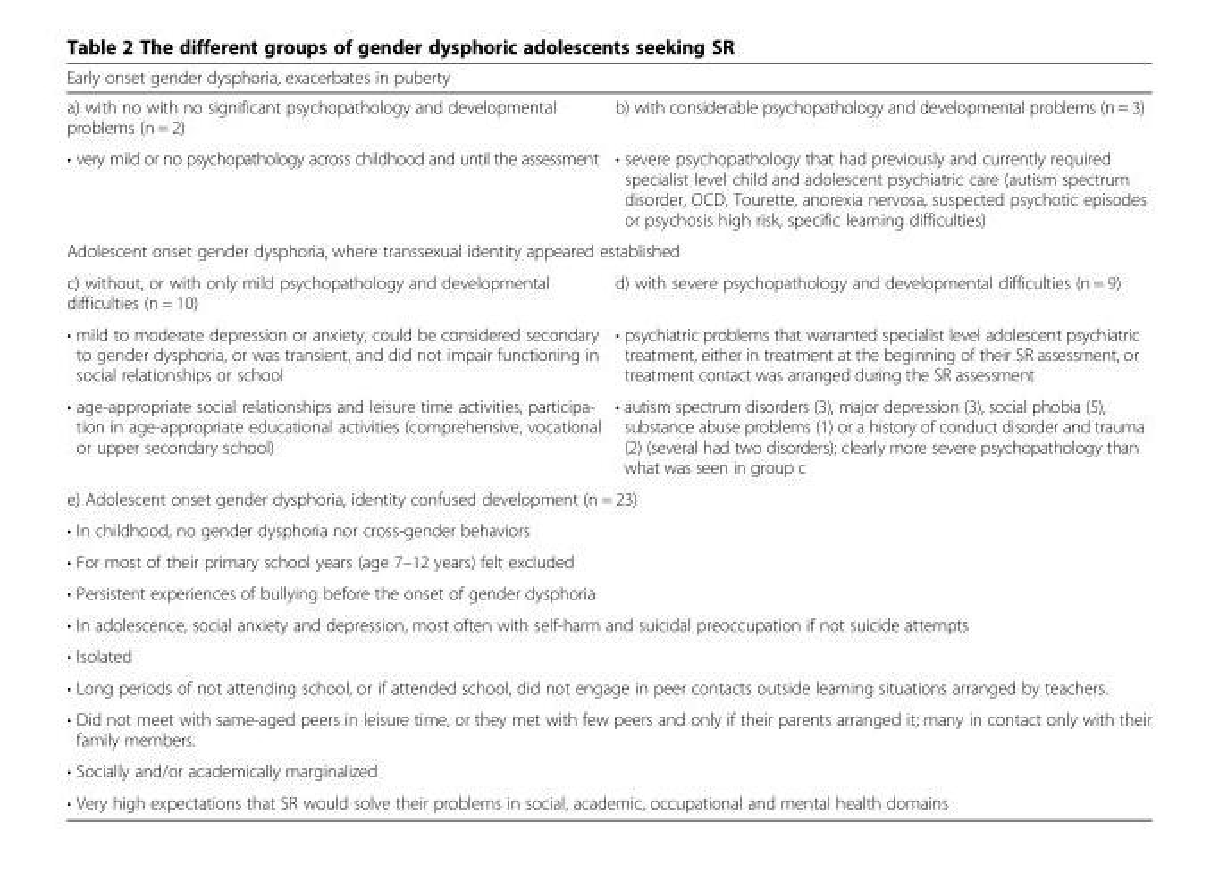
<table><thead><tr><td colspan="2">Early onset gender dysphoria, exacerbates in puberty</td></tr><tr><td>a) with no with no significant psychopathology and developmental problems (n = 2)</td><td>b) with considerable psychopathology and developmental problems (n = 3)</td></tr></thead><tbody><tr><td>• very mild or no psychopathology across childhood and until the assessment</td><td>• severe psychopathology that had previously and currently required specialist level child and adolescent psychiatric care (autism spectrum disorder, OCD, Tourette, anorexia nervosa, suspected psychotic episodes or psychosis high risk, specific learning difficulties)</td></tr><tr><td colspan="2">Adolescent onset gender dysphoria, where transsexual identity appeared established</td></tr><tr><td>c) without, or with only mild psychopathology and developmental difficulties (n = 10)</td><td>d) with severe psychopathology and developmental difficulties (n = 9)</td></tr><tr><td>• mild to moderate depression or anxiety, could be considered secondary to gender dysphoria, or was transient, and did not impair functioning in social relationships or school</td><td>• psychiatric problems that warranted specialist level adolescent psychiatric treatment, either in treatment at the beginning of their SR assessment, or treatment contact was arranged during the SR assessment</td></tr><tr><td>• age-appropriate social relationships and leisure time activities, participa- tion in age-appropriate educational activities (comprehensive, vocational or upper secondary school)</td><td>• autism spectrum disorders (3), major depression (3), social phobia (5), substance abuse problems (1) or a history of conduct disorder and trauma (2) (several had two disorders); clearly more severe psychopathology than what was seen in group c</td></tr><tr><td colspan="2">e) Adolescent onset gender dysphoria, identity confused development (n = 23)</td></tr><tr><td colspan="2">• In childhood, no gender dysphoria nor cross-gender behaviors</td></tr><tr><td colspan="2">• For most of their primary school years (age 7–12 years) felt excluded</td></tr><tr><td colspan="2">• Persistent experiences of bullying before the onset of gender dysphoria</td></tr><tr><td colspan="2">• In adolescence, social anxiety and depression, most often with self-harm and suicidal preoccupation if not suicide attempts</td></tr><tr><td colspan="2">• Isolated</td></tr><tr><td colspan="2">• Long periods of not attending school, or if attended school, did not engage in peer contacts outside learning situations arranged by teachers.</td></tr><tr><td colspan="2">• Did not meet with same-aged peers in leisure time, or they met with few peers and only if their parents arranged it; many in contact only with their family members.</td></tr><tr><td colspan="2">• Socially and/or academically marginalized</td></tr><tr><td colspan="2">• Very high expectations that SR would solve their problems in social, academic, occupational and mental health domains</td></tr></tbody></table>